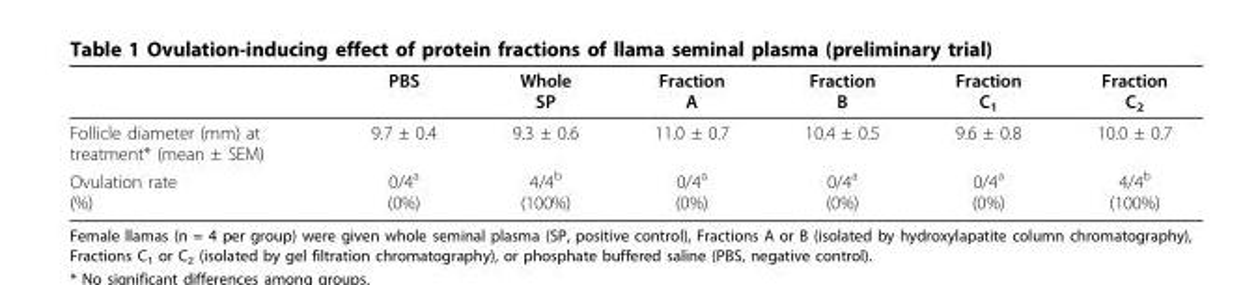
<table><thead><tr><td></td><td>PBS</td><td>Whole SP</td><td>Fraction A</td><td>Fraction B</td><td>Fraction C<sub>1</sub></td><td>Fraction C<sub>2</sub></td></tr></thead><tbody><tr><td>Follicle diameter (mm) at treatment* (mean ± SEM)</td><td>9.7 ± 0.4</td><td>9.3 ± 0.6</td><td>11.0 ± 0.7</td><td>10.4 ± 0.5</td><td>9.6 ± 0.8</td><td>10.0 ± 0.7</td></tr><tr><td>Ovulation rate (%)</td><td>0/4<sup>a</sup> (0%)</td><td>4/4<sup>b</sup> (100%)</td><td>0/4<sup>a</sup> (0%)</td><td>0/4<sup>a</sup> (0%)</td><td>0/4<sup>a</sup> (0%)</td><td>4/4<sup>b</sup> (100%)</td></tr></tbody></table>